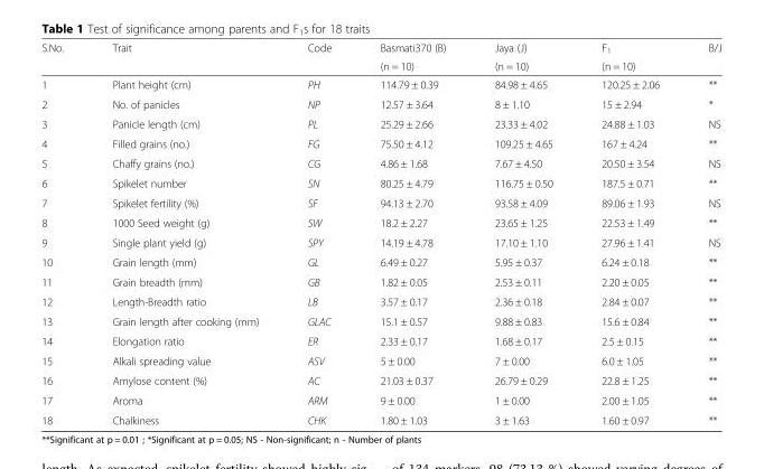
<table><thead><tr><td rowspan="2">S.No.</td><td rowspan="2">Trait</td><td rowspan="2">Code</td><td rowspan="2">Basmati370 (B) (n = 10)</td><td rowspan="2">Jaya (J) (n = 10)</td><td rowspan="2">F<sub>1</sub> (n = 10)</td><td rowspan="2">B/J</td></tr><tr></tr></thead><tbody><tr><td>1</td><td>Plant height (cm)</td><td>PH</td><td>114.79 ± 0.39</td><td>84.98 ± 4.65</td><td>120.25 ± 2.06</td><td>**</td></tr><tr><td>2</td><td>No. of panicles</td><td>NP</td><td>12.57 ± 3.64</td><td>8 ± 1.10</td><td>15 ± 2.94</td><td>*</td></tr><tr><td>3</td><td>Panicle length (cm)</td><td>PL</td><td>25.29 ± 2.66</td><td>23.33 ± 4.02</td><td>24.88 ± 1.03</td><td>NS</td></tr><tr><td>4</td><td>Filled grains (no.)</td><td>FG</td><td>75.50 ± 4.12</td><td>109.25 ± 4.65</td><td>167 ± 4.24</td><td>**</td></tr><tr><td>5</td><td>Chaffy grains (no.)</td><td>CG</td><td>4.86 ± 1.68</td><td>7.67 ± 4.50</td><td>20.50 ± 3.54</td><td>NS</td></tr><tr><td>6</td><td>Spikelet number</td><td>SN</td><td>80.25 ± 4.79</td><td>116.75 ± 0.50</td><td>187.5 ± 0.71</td><td>**</td></tr><tr><td>7</td><td>Spikelet fertility (%)</td><td>SF</td><td>94.13 ± 2.70</td><td>93.58 ± 4.09</td><td>89.06 ± 1.93</td><td>NS</td></tr><tr><td>8</td><td>1000 Seed weight (g)</td><td>SW</td><td>18.2 ± 2.27</td><td>23.65 ± 1.25</td><td>22.53 ± 1.49</td><td>**</td></tr><tr><td>9</td><td>Single plant yield (g)</td><td>SPY</td><td>14.19 ± 4.78</td><td>17.10 ± 1.10</td><td>27.96 ± 1.41</td><td>NS</td></tr><tr><td>10</td><td>Grain length (mm)</td><td>GL</td><td>6.49 ± 0.27</td><td>5.95 ± 0.37</td><td>6.24 ± 0.18</td><td>**</td></tr><tr><td>11</td><td>Grain breadth (mm)</td><td>GB</td><td>1.82 ± 0.05</td><td>2.53 ± 0.11</td><td>2.20 ± 0.05</td><td>**</td></tr><tr><td>12</td><td>Length-Breadth ratio</td><td>LB</td><td>3.57 ± 0.17</td><td>2.36 ± 0.18</td><td>2.84 ± 0.07</td><td>**</td></tr><tr><td>13</td><td>Grain length after cooking (mm)</td><td>GLAC</td><td>15.1 ± 0.57</td><td>9.88 ± 0.83</td><td>15.6 ± 0.84</td><td>**</td></tr><tr><td>14</td><td>Elongation ratio</td><td>ER</td><td>2.33 ± 0.17</td><td>1.68 ± 0.17</td><td>2.5 ± 0.15</td><td>**</td></tr><tr><td>15</td><td>Alkali spreading value</td><td>ASV</td><td>5 ± 0.00</td><td>7 ± 0.00</td><td>6.0 ± 1.05</td><td>**</td></tr><tr><td>16</td><td>Amylose content (%)</td><td>AC</td><td>21.03 ± 0.37</td><td>26.79 ± 0.29</td><td>22.8 ± 1.25</td><td>**</td></tr><tr><td>17</td><td>Aroma</td><td>ARM</td><td>9 ± 0.00</td><td>1 ± 0.00</td><td>2.00 ± 1.05</td><td>**</td></tr><tr><td>18</td><td>Chalkiness</td><td>CHK</td><td>1.80 ± 1.03</td><td>3 ± 1.63</td><td>1.60 ± 0.97</td><td>**</td></tr></tbody></table>